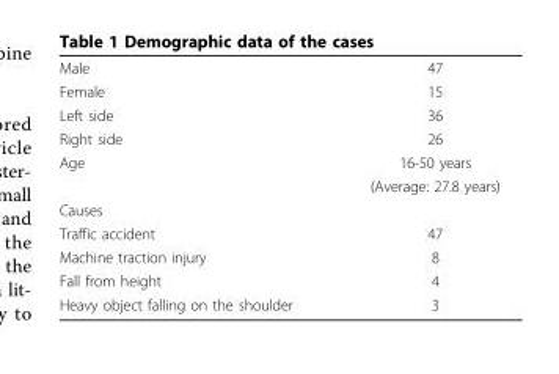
<table><tbody><tr><td>Male</td><td>47</td></tr><tr><td>Female</td><td>15</td></tr><tr><td>Left side</td><td>36</td></tr><tr><td>Right side</td><td>26</td></tr><tr><td rowspan="2">Age</td><td>16-50 years</td></tr><tr><td>(Average: 27.8 years)</td></tr><tr><td colspan="2">Causes</td></tr><tr><td>Traffic accident</td><td>47</td></tr><tr><td>Machine traction injury</td><td>8</td></tr><tr><td>Fall from height</td><td>4</td></tr><tr><td>Heavy object falling on the shoulder</td><td>3</td></tr></tbody></table>